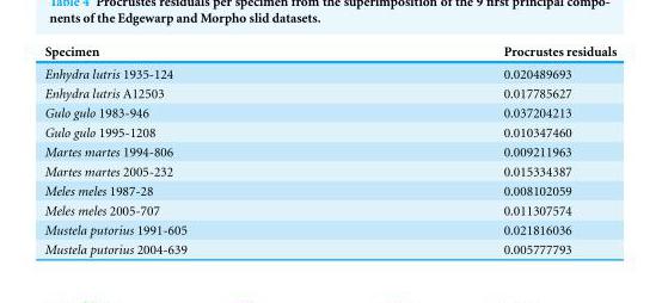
<table><thead><tr><td>Specimen</td><td>Procrustes residuals</td></tr></thead><tbody><tr><td>Enhydra lutris 1935-124</td><td>0.020489693</td></tr><tr><td>Enhydra lutris A12503</td><td>0.017785627</td></tr><tr><td>Gulo gulo 1983-946</td><td>0.037204213</td></tr><tr><td>Gulo gulo 1995-1208</td><td>0.010347460</td></tr><tr><td>Martes martes 1994-806</td><td>0.009211963</td></tr><tr><td>Martes martes 2005-232</td><td>0.015334387</td></tr><tr><td>Meles meles 1987-28</td><td>0.008102059</td></tr><tr><td>Meles meles 2005-707</td><td>0.011307574</td></tr><tr><td>Mustela putorius 1991-605</td><td>0.021816036</td></tr><tr><td>Mustela putorius 2004-639</td><td>0.005777793</td></tr></tbody></table>